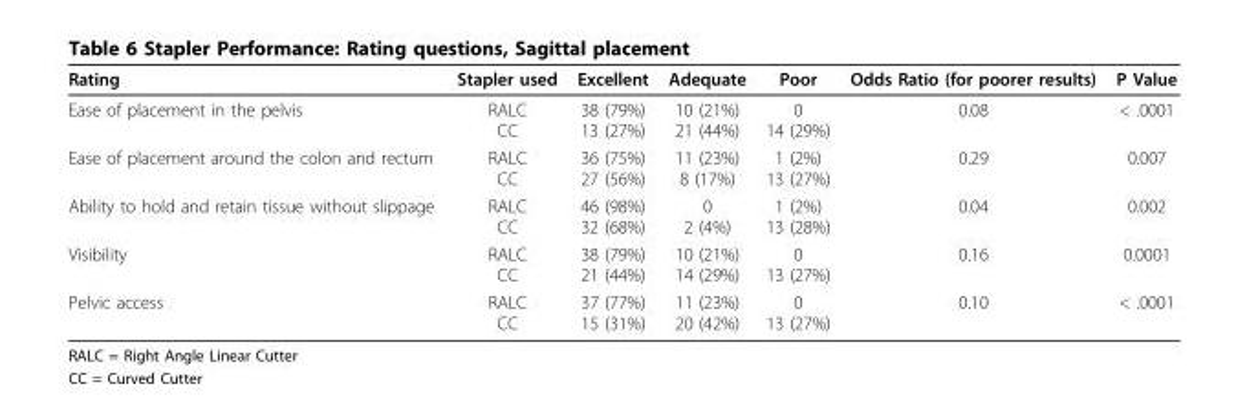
<table><thead><tr><td>Rating</td><td>Stapler used</td><td>Excellent</td><td>Adequate</td><td>Poor</td><td>Odds Ratio (for poorer results)</td><td>P Value</td></tr></thead><tbody><tr><td>Ease of placement in the pelvis</td><td>RALC CC</td><td>38 (79%) 13 (27%)</td><td>10 (21%) 21 (44%)</td><td>0 14 (29%)</td><td>0.08</td><td>&lt; .0001</td></tr><tr><td>Ease of placement around the colon and rectum</td><td>RALC CC</td><td>36 (75%) 27 (56%)</td><td>11 (23%) 8 (17%)</td><td>1 (2%) 13 (27%)</td><td>0.29</td><td>0.007</td></tr><tr><td>Ability to hold and retain tissue without slippage</td><td>RALC CC</td><td>46 (98%) 32 (68%)</td><td>0 2 (4%)</td><td>1 (2%) 13 (28%)</td><td>0.04</td><td>0.002</td></tr><tr><td>Visibility</td><td>RALC CC</td><td>38 (79%) 21 (44%)</td><td>10 (21%) 14 (29%)</td><td>0 13 (27%)</td><td>0.16</td><td>0.0001</td></tr><tr><td>Pelvic access</td><td>RALC CC</td><td>37 (77%) 15 (31%)</td><td>11 (23%) 20 (42%)</td><td>0 13 (27%)</td><td>0.10</td><td>&lt; .0001</td></tr></tbody></table>